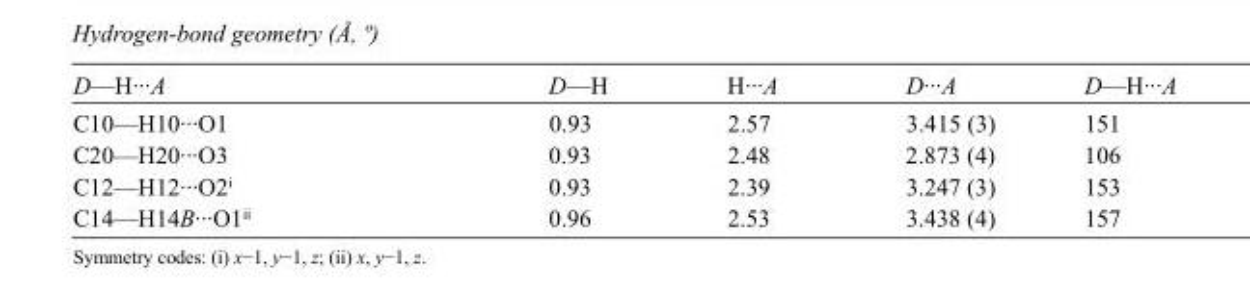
<table><tbody><tr><td>D—H···A</td><td>D—H</td><td>H···A</td><td>D···A</td><td>D—H···A</td></tr><tr><td>C10—H10···O1</td><td>0.93</td><td>2.57</td><td>3.415 (3)</td><td>151</td></tr><tr><td>C20—H20···O3</td><td>0.93</td><td>2.48</td><td>2.873 (4)</td><td>106</td></tr><tr><td>C12—H12···O2<sup>i</sup></td><td>0.93</td><td>2.39</td><td>3.247 (3)</td><td>153</td></tr><tr><td>C14—H14B···O1<sup>ii</sup></td><td>0.96</td><td>2.53</td><td>3.438 (4)</td><td>157</td></tr></tbody></table>